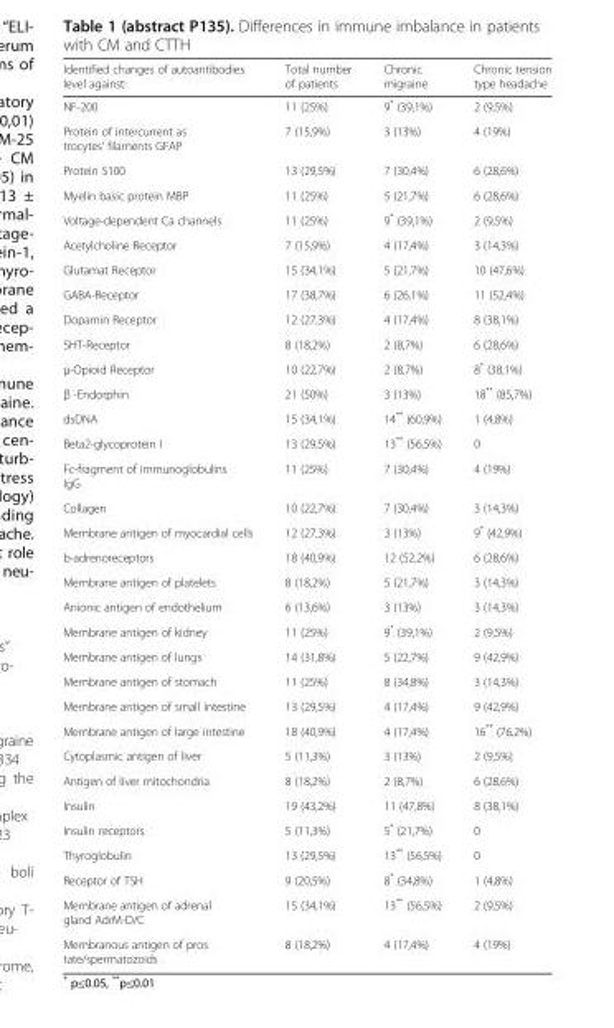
<table><thead><tr><td>Identified changes of autoantibodies level against:</td><td>Total number of patients</td><td>Chronic migraine</td><td>Chronic tension type headache</td></tr></thead><tbody><tr><td>NF-200</td><td>11 (25%)</td><td>9* (39,1%)</td><td>2 (9,5%)</td></tr><tr><td>Protein of intercurrent as trocytes’ filaments GFAP</td><td>7 (15,9%)</td><td>3 (13%)</td><td>4 (19%)</td></tr><tr><td>Protein S100</td><td>13 (29,5%)</td><td>7 (30,4%)</td><td>6 (28,6%)</td></tr><tr><td>Myelin basic protein MBP</td><td>11 (25%)</td><td>5 (21,7%)</td><td>6 (28,6%)</td></tr><tr><td>Voltage-dependent Ca channels</td><td>11 (25%)</td><td>9* (39,1%)</td><td>2 (9,5%)</td></tr><tr><td>Acetylcholine Receptor</td><td>7 (15,9%)</td><td>4 (17,4%)</td><td>3 (14,3%)</td></tr><tr><td>Glutamat Receptor</td><td>15 (34,1%)</td><td>5 (21,7%)</td><td>10 (47,6%)</td></tr><tr><td>GABA-Receptor</td><td>17 (38,7%)</td><td>6 (26,1%)</td><td>11 (52,4%)</td></tr><tr><td>Dopamin Receptor</td><td>12 (27,3%)</td><td>4 (17,4%)</td><td>8 (38,1%)</td></tr><tr><td>5HT-Receptor</td><td>8 (18,2%)</td><td>2 (8,7%)</td><td>6 (28,6%)</td></tr><tr><td>μ-Opioid Receptor</td><td>10 (22,7%)</td><td>2 (8,7%)</td><td>8* (38,1%)</td></tr><tr><td>β -Endorphin</td><td>21 (50%)</td><td>3 (13%)</td><td>18** (85,7%)</td></tr><tr><td>dsDNA</td><td>15 (34,1%)</td><td>14** (60,9%)</td><td>1 (4,8%)</td></tr><tr><td>Beta2-glycoprotein I</td><td>13 (29,5%)</td><td>13** (56,5%)</td><td>0</td></tr><tr><td>Fc-fragment of immunoglobulins IgG</td><td>11 (25%)</td><td>7 (30,4%)</td><td>4 (19%)</td></tr><tr><td>Collagen</td><td>10 (22,7%)</td><td>7 (30,4%)</td><td>3 (14,3%)</td></tr><tr><td>Membrane antigen of myocardial cells</td><td>12 (27,3%)</td><td>3 (13%)</td><td>9* (42,9%)</td></tr><tr><td>b-adrenoreceptors</td><td>18 (40,9%)</td><td>12 (52,2%)</td><td>6 (28,6%)</td></tr><tr><td>Membrane antigen of platelets</td><td>8 (18,2%)</td><td>5 (21,7%)</td><td>3 (14,3%)</td></tr><tr><td>Anionic antigen of endothelium</td><td>6 (13,6%)</td><td>3 (13%)</td><td>3 (14,3%)</td></tr><tr><td>Membrane antigen of kidney</td><td>11 (25%)</td><td>9* (39,1%)</td><td>2 (9,5%)</td></tr><tr><td>Membrane antigen of lungs</td><td>14 (31,8%)</td><td>5 (22,7%)</td><td>9 (42,9%)</td></tr><tr><td>Membrane antigen of stomach</td><td>11 (25%)</td><td>8 (34,8%)</td><td>3 (14,3%)</td></tr><tr><td>Membrane antigen of small intestine</td><td>13 (29,5%)</td><td>4 (17,4%)</td><td>9 (42,9%)</td></tr><tr><td>Membrane antigen of large intestine</td><td>18 (40,9%)</td><td>4 (17,4%)</td><td>16** (76,2%)</td></tr><tr><td>Cytoplasmic antigen of liver</td><td>5 (11,3%)</td><td>3 (13%)</td><td>2 (9,5%)</td></tr><tr><td>Antigen of liver mitochondria</td><td>8 (18,2%)</td><td>2 (8,7%)</td><td>6 (28,6%)</td></tr><tr><td>Insulin</td><td>19 (43,2%)</td><td>11 (47,8%)</td><td>8 (38,1%)</td></tr><tr><td>Insulin receptors</td><td>5 (11,3%)</td><td>5* (21,7%)</td><td>0</td></tr><tr><td>Thyroglobulin</td><td>13 (29,5%)</td><td>13** (56,5%)</td><td>0</td></tr><tr><td>Receptor of TSH</td><td>9 (20,5%)</td><td>8* (34,8%)</td><td>1 (4,8%)</td></tr><tr><td>Membrane antigen of adrenal gland AdrM-D/C</td><td>15 (34,1%)</td><td>13** (56,5%)</td><td>2 (9,5%)</td></tr><tr><td>Membranous antigen of pros tate/spermatozoids</td><td>8 (18,2%)</td><td>4 (17,4%)</td><td>4 (19%)</td></tr></tbody></table>